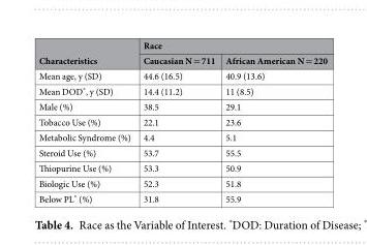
<table><thead><tr><td rowspan="2">Characteristics</td><td colspan="2">Race</td></tr><tr><td>Caucasian N = 711</td><td>African American N = 220</td></tr></thead><tbody><tr><td>Mean age, y (SD)</td><td>44.6 (16.5)</td><td>40.9 (13.6)</td></tr><tr><td>Mean DOD*, y (SD)</td><td>14.4 (11.2)</td><td>11 (8.5)</td></tr><tr><td>Male (%)</td><td>38.5</td><td>29.1</td></tr><tr><td>Tobacco Use (%)</td><td>22.1</td><td>23.6</td></tr><tr><td>Metabolic Syndrome (%)</td><td>4.4</td><td>5.1</td></tr><tr><td>Steroid Use (%)</td><td>53.7</td><td>55.5</td></tr><tr><td>Thiopurine Use (%)</td><td>53.3</td><td>50.9</td></tr><tr><td>Biologic Use (%)</td><td>52.3</td><td>51.8</td></tr><tr><td>Below PL* (%)</td><td>31.8</td><td>55.9</td></tr></tbody></table>